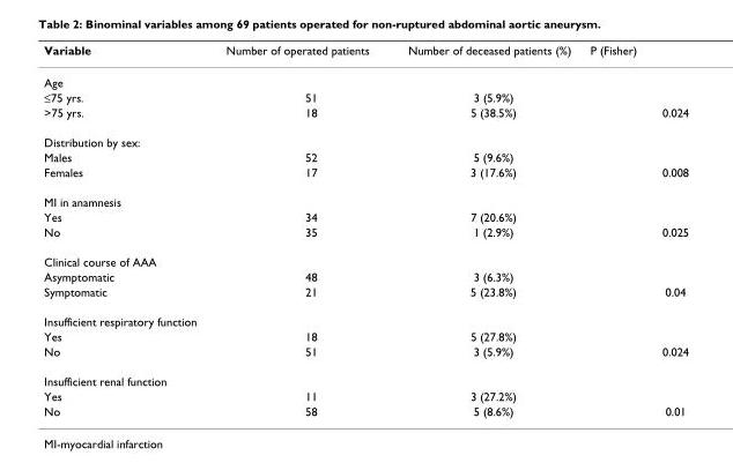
<table><thead><tr><td>Variable</td><td>Number of operated patients</td><td>Number of deceased patients (%)</td><td>P (Fisher)</td></tr></thead><tbody><tr><td colspan="4">Age</td></tr><tr><td>≤75 yrs.</td><td>51</td><td>3 (5.9%)</td><td></td></tr><tr><td>&gt;75 yrs.</td><td>18</td><td>5 (38.5%)</td><td>0.024</td></tr><tr><td colspan="4">Distribution by sex:</td></tr><tr><td>Males</td><td>52</td><td>5 (9.6%)</td><td></td></tr><tr><td>Females</td><td>17</td><td>3 (17.6%)</td><td>0.008</td></tr><tr><td colspan="4">MI in anamnesis</td></tr><tr><td>Yes</td><td>34</td><td>7 (20.6%)</td><td></td></tr><tr><td>No</td><td>35</td><td>1 (2.9%)</td><td>0.025</td></tr><tr><td colspan="4">Clinical course of AAA</td></tr><tr><td>Asymptomatic</td><td>48</td><td>3 (6.3%)</td><td></td></tr><tr><td>Symptomatic</td><td>21</td><td>5 (23.8%)</td><td>0.04</td></tr><tr><td colspan="4">Insufficient respiratory function</td></tr><tr><td>Yes</td><td>18</td><td>5 (27.8%)</td><td></td></tr><tr><td>No</td><td>51</td><td>3 (5.9%)</td><td>0.024</td></tr><tr><td colspan="4">Insufficient renal function</td></tr><tr><td>Yes</td><td>11</td><td>3 (27.2%)</td><td></td></tr><tr><td>No</td><td>58</td><td>5 (8.6%)</td><td>0.01</td></tr></tbody></table>